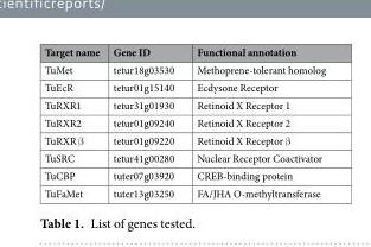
<table><thead><tr><td>Target name</td><td>Gene ID</td><td>Functional annotation</td></tr></thead><tbody><tr><td>TuMet</td><td>tetur18g03530</td><td>Methoprene-tolerant homolog</td></tr><tr><td>TuEcR</td><td>tetur01g15140</td><td>Ecdysone Receptor</td></tr><tr><td>TuRXR1</td><td>tetur31g01930</td><td>Retinoid X Receptor 1</td></tr><tr><td>TuRXR2</td><td>tetur01g09240</td><td>Retinoid X Receptor 2</td></tr><tr><td>TuRXR β</td><td>tetur01g09220</td><td>Retinoid X Receptor β</td></tr><tr><td>TuSRC</td><td>tetur41g00280</td><td>Nuclear Receptor Coactivator</td></tr><tr><td>TuCBP</td><td>tuter07g03920</td><td>CREB-binding protein</td></tr><tr><td>TuFaMet</td><td>tuter13g03250</td><td>FA/JHA O-methyltransferase</td></tr></tbody></table>